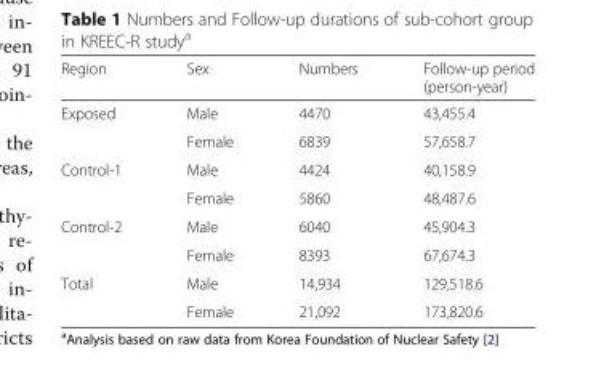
<table><thead><tr><td>Region</td><td>Sex</td><td>Numbers</td><td>Follow-up period (person-year)</td></tr></thead><tbody><tr><td rowspan="2">Exposed</td><td>Male</td><td>4470</td><td>43,455.4</td></tr><tr><td>Female</td><td>6839</td><td>57,658.7</td></tr><tr><td rowspan="2">Control-1</td><td>Male</td><td>4424</td><td>40,158.9</td></tr><tr><td>Female</td><td>5860</td><td>48,487.6</td></tr><tr><td rowspan="2">Control-2</td><td>Male</td><td>6040</td><td>45,904.3</td></tr><tr><td>Female</td><td>8393</td><td>67,674.3</td></tr><tr><td rowspan="2">Total</td><td>Male</td><td>14,934</td><td>129,518.6</td></tr><tr><td>Female</td><td>21,092</td><td>173,820.6</td></tr></tbody></table>